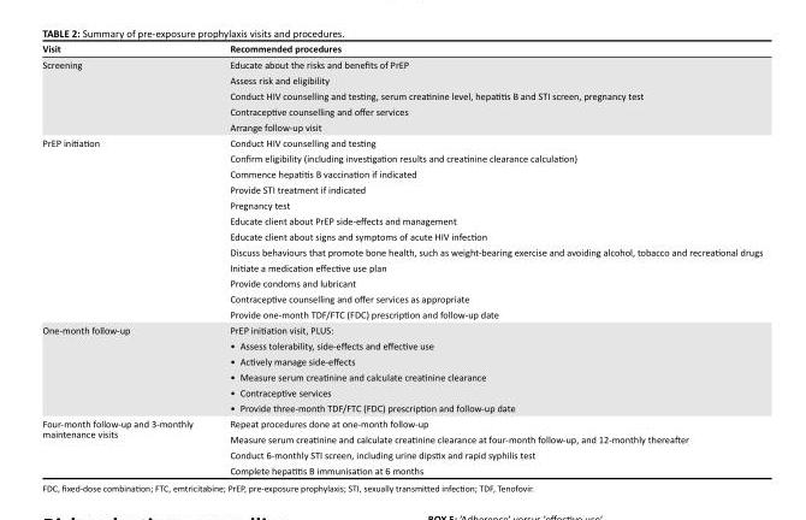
<table><thead><tr><td>Visit</td><td>Recommended procedures</td></tr></thead><tbody><tr><td>Screening</td><td>Educate about the risks and benefits of PrEP Assess risk and eligibility Conduct HIV counselling and testing, serum creatinine level, hepatitis B and STI screen, pregnancy test Contraceptive counselling and offer services Arrange follow-up visit</td></tr><tr><td>PrEP initiation</td><td>Conduct HIV counselling and testing Confirm eligibility (including investigation results and creatinine clearance calculation) Commence hepatitis B vaccination if indicated Provide STI treatment if indicated Pregnancy test Educate client about PrEP side-effects and management Educate client about signs and symptoms of acute HIV infection Discuss behaviours that promote bone health, such as weight-bearing exercise and avoiding alcohol, tobacco and recreational drugs Initiate a medication effective use plan Provide condoms and lubricant Contraceptive counselling and offer services as appropriate Provide one-month TDF/FTC (FDC) prescription and follow-up date</td></tr><tr><td>One-month follow-up</td><td>PrEP initiation visit, PLUS: • Assess tolerability, side-effects and effective use • Actively manage side-effects • Measure serum creatinine and calculate creatinine clearance • Contraceptive services • Provide three-month TDF/FTC (FDC) prescription and follow-up date</td></tr><tr><td>Four-month follow-up and 3-monthly maintenance visits</td><td>Repeat procedures done at one-month follow-up Measure serum creatinine and calculate creatinine clearance at four-month follow-up, and 12-monthly thereafter Conduct 6-monthly STI screen, including urine dipstix and rapid syphilis test Complete hepatitis B immunisation at 6 months</td></tr></tbody></table>